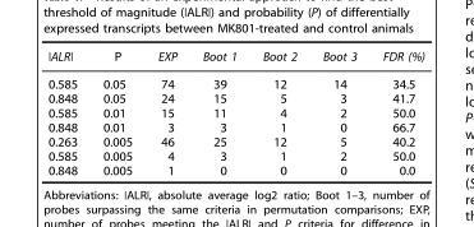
<table><thead><tr><td>|ALR|</td><td>P</td><td>EXP</td><td>Boot 1</td><td>Boot 2</td><td>Boot 3</td><td>FDR (%)</td></tr></thead><tbody><tr><td>0.585</td><td>0.05</td><td>74</td><td>39</td><td>12</td><td>14</td><td>34.5</td></tr><tr><td>0.848</td><td>0.05</td><td>24</td><td>15</td><td>5</td><td>3</td><td>41.7</td></tr><tr><td>0.585</td><td>0.01</td><td>15</td><td>11</td><td>4</td><td>2</td><td>50.0</td></tr><tr><td>0.848</td><td>0.01</td><td>3</td><td>3</td><td>1</td><td>0</td><td>66.7</td></tr><tr><td>0.263</td><td>0.005</td><td>46</td><td>25</td><td>12</td><td>5</td><td>40.2</td></tr><tr><td>0.585</td><td>0.005</td><td>4</td><td>3</td><td>1</td><td>2</td><td>50.0</td></tr><tr><td>0.848</td><td>0.005</td><td>1</td><td>0</td><td>0</td><td>0</td><td>0.0</td></tr></tbody></table>